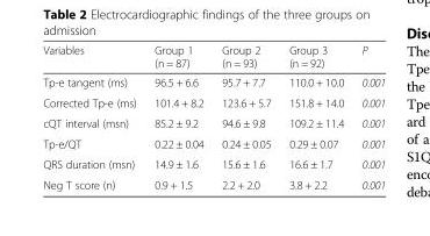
<table><thead><tr><td>Variables</td><td>Group 1 (n = 87)</td><td>Group 2 (n = 93)</td><td>Group 3 (n = 92)</td><td>P</td></tr></thead><tbody><tr><td>Tp-e tangent (ms)</td><td>96.5 + 6.6</td><td>95.7 + 7.7</td><td>110.0 + 10.0</td><td>0.001</td></tr><tr><td>Corrected Tp-e (ms)</td><td>101.4 + 8.2</td><td>123.6 + 5.7</td><td>151.8 + 14.0</td><td>0.001</td></tr><tr><td>cQT interval (msn)</td><td>85.2 ± 9.2</td><td>94.6 ± 9.8</td><td>109.2 ± 11.4</td><td>0.001</td></tr><tr><td>Tp-e/QT</td><td>0.22 ± 0.04</td><td>0.24 ± 0.05</td><td>0.29 ± 0.07</td><td>0.001</td></tr><tr><td>QRS duration (msn)</td><td>14.9 ± 1.6</td><td>15.6 ± 1.6</td><td>16.6 ± 1.7</td><td>0.001</td></tr><tr><td>Neg T score (n)</td><td>0.9 + 1.5</td><td>2.2 + 2.0</td><td>3.8 + 2.2</td><td>0.001</td></tr></tbody></table>